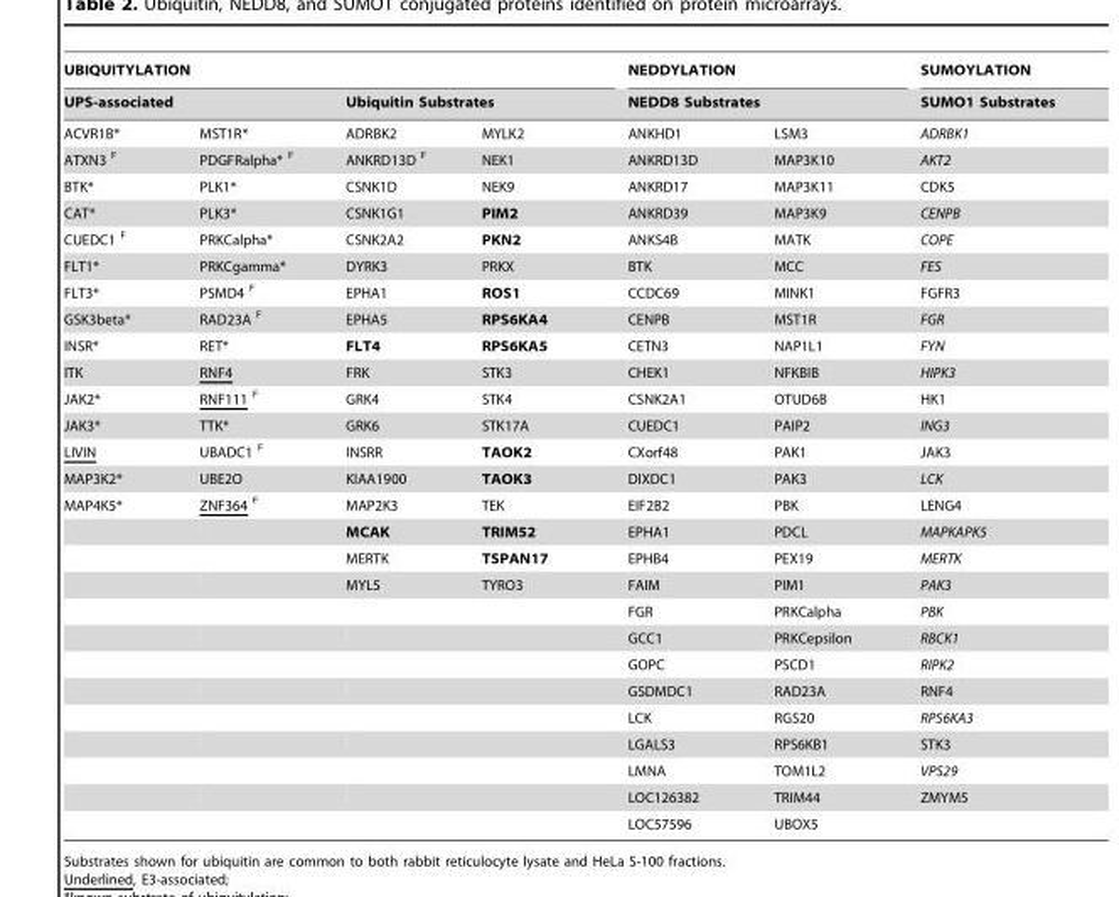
<table><thead><tr><td colspan="4">UBIQUITYLATION</td><td rowspan="2" colspan="2">NEDDYLATION NEDD8 Substrates</td><td rowspan="3">SUMOYLATION SUMO1 Substrates ADRBK1</td></tr><tr><td colspan="2">UPS-associated</td><td colspan="2">Ubiquitin Substrates</td></tr><tr><td>ACVR1B*</td><td>MST1R*</td><td>ADRBK2</td><td>MYLK2</td><td>ANKHD1</td><td>LSM3</td></tr></thead><tbody><tr><td>ATXN3 <sup>F</sup></td><td>PDGFRalpha* <sup>F</sup></td><td>ANKRD13D <sup>F</sup></td><td>NEK1</td><td>ANKRD13D</td><td>MAP3K10</td><td>AKT2</td></tr><tr><td>BTK*</td><td>PLK1*</td><td>CSNK1D</td><td>NEK9</td><td>ANKRD17</td><td>MAP3K11</td><td>CDK5</td></tr><tr><td>CAT*</td><td>PLK3*</td><td>CSNK1G1</td><td>PIM2</td><td>ANKRD39</td><td>MAP3K9</td><td>CENPB</td></tr><tr><td>CUEDC1 <sup>F</sup></td><td>PRKCalpha*</td><td>CSNK2A2</td><td>PKN2</td><td>ANKS4B</td><td>MATK</td><td>COPE</td></tr><tr><td>FLT1*</td><td>PRKCgamma*</td><td>DYRK3</td><td>PRKX</td><td>BTK</td><td>MCC</td><td>FES</td></tr><tr><td>FLT3*</td><td>PSMD4 <sup>F</sup></td><td>EPHA1</td><td>ROS1</td><td>CCDC69</td><td>MINK1</td><td>FGFR3</td></tr><tr><td>GSK3beta*</td><td>RAD23A <sup>F</sup></td><td>EPHA5</td><td>RPS6KA4</td><td>CENPB</td><td>MST1R</td><td>FGR</td></tr><tr><td>INSR*</td><td>RET*</td><td>FLT4</td><td>RPS6KA5</td><td>CETN3</td><td>NAP1L1</td><td>FYN</td></tr><tr><td>ITK</td><td>RNF4</td><td>FRK</td><td>STK3</td><td>CHEK1</td><td>NFKBIB</td><td>HIPK3</td></tr><tr><td>JAK2*</td><td>RNF111 <sup>F</sup></td><td>GRK4</td><td>STK4</td><td>CSNK2A1</td><td>OTUD6B</td><td>HK1</td></tr><tr><td>JAK3*</td><td>TTK*</td><td>GRK6</td><td>STK17A</td><td>CUEDC1</td><td>PAIP2</td><td>ING3</td></tr><tr><td>LIVIN</td><td>UBADC1 <sup>F</sup></td><td>INSRR</td><td>TAOK2</td><td>CXorf48</td><td>PAK1</td><td>JAK3</td></tr><tr><td>MAP3K2*</td><td>UBE2O</td><td>KIAA1900</td><td>TAOK3</td><td>DIXDC1</td><td>PAK3</td><td>LCK</td></tr><tr><td rowspan="13">MAP4K5*</td><td>ZNF364 <sup>F</sup></td><td>MAP2K3</td><td>TEK</td><td>EIF2B2</td><td>PBK</td><td>LENG4</td></tr><tr><td></td><td>MCAK</td><td>TRIM52</td><td>EPHA1</td><td>PDCL</td><td>MAPKAPK5</td></tr><tr><td></td><td>MERTK</td><td>TSPAN17</td><td>EPHB4</td><td>PEX19</td><td>MERTK</td></tr><tr><td></td><td>MYL5</td><td>TYRO3</td><td>FAIM</td><td>PIM1</td><td>PAK3</td></tr><tr><td></td><td></td><td></td><td>FGR</td><td>PRKCalpha</td><td>PBK</td></tr><tr><td></td><td></td><td></td><td>GCC1</td><td>PRKCepsilon</td><td>RBCK1</td></tr><tr><td></td><td></td><td></td><td>GOPC</td><td>PSCD1</td><td>RIPK2</td></tr><tr><td></td><td></td><td></td><td>GSDMDC1</td><td>RAD23A</td><td>RNF4</td></tr><tr><td></td><td></td><td></td><td>LCK</td><td>RGS20</td><td>RPS6KA3</td></tr><tr><td></td><td></td><td></td><td>LGALS3</td><td>RPS6KB1</td><td>STK3</td></tr><tr><td></td><td></td><td></td><td>LMNA</td><td>TOM1L2</td><td>VPS29</td></tr><tr><td></td><td></td><td></td><td>LOC126382</td><td>TRIM44</td><td>ZMYM5</td></tr><tr><td></td><td></td><td></td><td>LOC57596</td><td>UBOX5</td><td></td></tr></tbody></table>